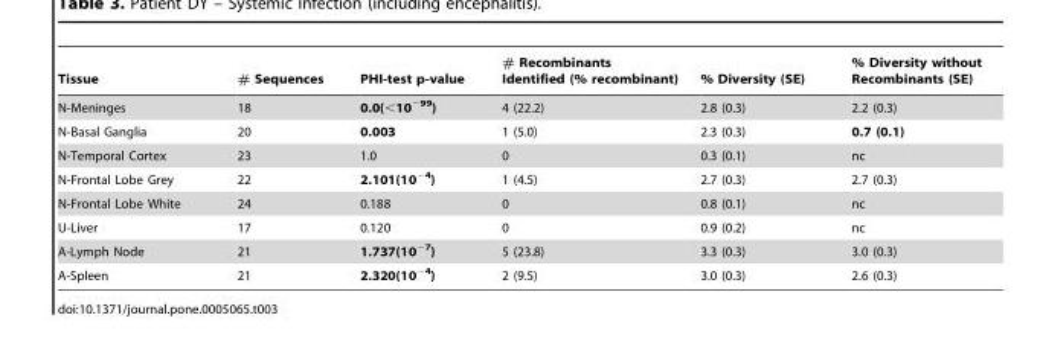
<table><thead><tr><td>Tissue</td><td># Sequences</td><td>PHI-test p-value</td><td># Recombinants Identified (% recombinant)</td><td>% Diversity (SE)</td><td>% Diversity without Recombinants (SE)</td></tr></thead><tbody><tr><td>N-Meninges</td><td>18</td><td>0.0(&lt;10<sup>−99</sup>)</td><td>4 (22.2)</td><td>2.8 (0.3)</td><td>2.2 (0.3)</td></tr><tr><td>N-Basal Ganglia</td><td>20</td><td>0.003</td><td>1 (5.0)</td><td>2.3 (0.3)</td><td>0.7 (0.1)</td></tr><tr><td>N-Temporal Cortex</td><td>23</td><td>1.0</td><td>0</td><td>0.3 (0.1)</td><td>nc</td></tr><tr><td>N-Frontal Lobe Grey</td><td>22</td><td>2.101(10<sup>−4</sup>)</td><td>1 (4.5)</td><td>2.7 (0.3)</td><td>2.7 (0.3)</td></tr><tr><td>N-Frontal Lobe White</td><td>24</td><td>0.188</td><td>0</td><td>0.8 (0.1)</td><td>nc</td></tr><tr><td>U-Liver</td><td>17</td><td>0.120</td><td>0</td><td>0.9 (0.2)</td><td>nc</td></tr><tr><td>A-Lymph Node</td><td>21</td><td>1.737(10<sup>−7</sup>)</td><td>5 (23.8)</td><td>3.3 (0.3)</td><td>3.0 (0.3)</td></tr><tr><td>A-Spleen</td><td>21</td><td>2.320(10<sup>−4</sup>)</td><td>2 (9.5)</td><td>3.0 (0.3)</td><td>2.6 (0.3)</td></tr></tbody></table>